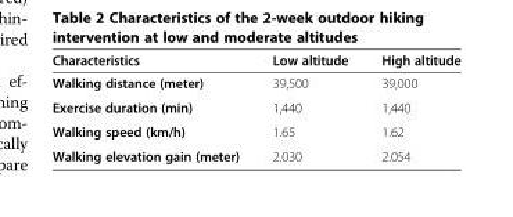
<table><thead><tr><td>Characteristics</td><td>Low altitude</td><td>High altitude</td></tr></thead><tbody><tr><td>Walking distance (meter)</td><td>39,500</td><td>39,000</td></tr><tr><td>Exercise duration (min)</td><td>1,440</td><td>1,440</td></tr><tr><td>Walking speed (km/h)</td><td>1.65</td><td>1.62</td></tr><tr><td>Walking elevation gain (meter)</td><td>2.030</td><td>2.054</td></tr></tbody></table>